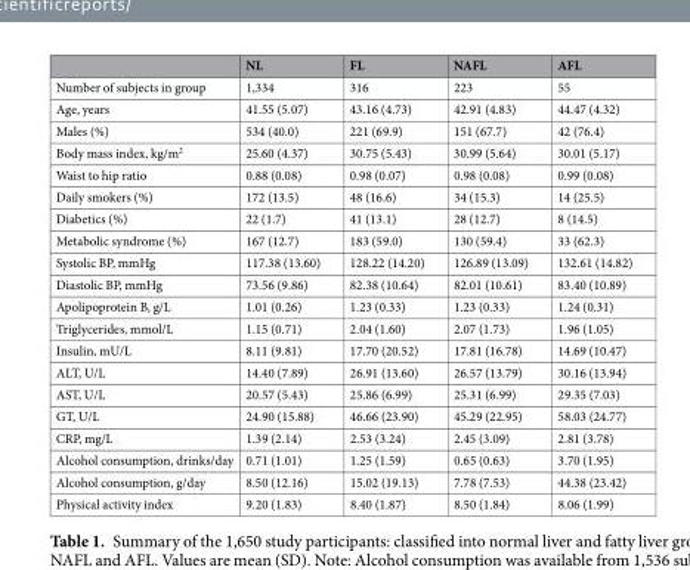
<table><thead><tr><td></td><td>NL</td><td>FL</td><td>NAFL</td><td>AFL</td></tr></thead><tbody><tr><td>Number of subjects in group</td><td>1,334</td><td>316</td><td>223</td><td>55</td></tr><tr><td>Age, years</td><td>41.55 (5.07)</td><td>43.16 (4.73)</td><td>42.91 (4.83)</td><td>44.47 (4.32)</td></tr><tr><td>Males (%)</td><td>534 (40.0)</td><td>221 (69.9)</td><td>151 (67.7)</td><td>42 (76.4)</td></tr><tr><td>Body mass index, kg/m<sup>2</sup></td><td>25.60 (4.37)</td><td>30.75 (5.43)</td><td>30.99 (5.64)</td><td>30.01 (5.17)</td></tr><tr><td>Waist to hip ratio</td><td>0.88 (0.08)</td><td>0.98 (0.07)</td><td>0.98 (0.08)</td><td>0.99 (0.08)</td></tr><tr><td>Daily smokers (%)</td><td>172 (13.5)</td><td>48 (16.6)</td><td>34 (15.3)</td><td>14 (25.5)</td></tr><tr><td>Diabetics (%)</td><td>22 (1.7)</td><td>41 (13.1)</td><td>28 (12.7)</td><td>8 (14.5)</td></tr><tr><td>Metabolic syndrome (%)</td><td>167 (12.7)</td><td>183 (59.0)</td><td>130 (59.4)</td><td>33 (62.3)</td></tr><tr><td>Systolic BP, mmHg</td><td>117.38 (13.60)</td><td>128.22 (14.20)</td><td>126.89 (13.09)</td><td>132.61 (14.82)</td></tr><tr><td>Diastolic BP, mmHg</td><td>73.56 (9.86)</td><td>82.38 (10.64)</td><td>82.01 (10.61)</td><td>83.40 (10.89)</td></tr><tr><td>Apolipoprotein B, g/L</td><td>1.01 (0.26)</td><td>1.23 (0.33)</td><td>1.23 (0.33)</td><td>1.24 (0.31)</td></tr><tr><td>Triglycerides, mmol/L</td><td>1.15 (0.71)</td><td>2.04 (1.60)</td><td>2.07 (1.73)</td><td>1.96 (1.05)</td></tr><tr><td>Insulin, mU/L</td><td>8.11 (9.81)</td><td>17.70 (20.52)</td><td>17.81 (16.78)</td><td>14.69 (10.47)</td></tr><tr><td>ALT, U/L</td><td>14.40 (7.89)</td><td>26.91 (13.60)</td><td>26.57 (13.79)</td><td>30.16 (13.94)</td></tr><tr><td>AST, U/L</td><td>20.57 (5.43)</td><td>25.86 (6.99)</td><td>25.31 (6.99)</td><td>29.35 (7.03)</td></tr><tr><td>GT, U/L</td><td>24.90 (15.88)</td><td>46.66 (23.90)</td><td>45.29 (22.95)</td><td>58.03 (24.77)</td></tr><tr><td>CRP, mg/L</td><td>1.39 (2.14)</td><td>2.53 (3.24)</td><td>2.45 (3.09)</td><td>2.81 (3.78)</td></tr><tr><td>Alcohol consumption, drinks/day</td><td>0.71 (1.01)</td><td>1.25 (1.59)</td><td>0.65 (0.63)</td><td>3.70 (1.95)</td></tr><tr><td>Alcohol consumption, g/day</td><td>8.50 (12.16)</td><td>15.02 (19.13)</td><td>7.78 (7.53)</td><td>44.38 (23.42)</td></tr><tr><td>Physical activity index</td><td>9.20 (1.83)</td><td>8.40 (1.87)</td><td>8.50 (1.84)</td><td>8.06 (1.99)</td></tr></tbody></table>